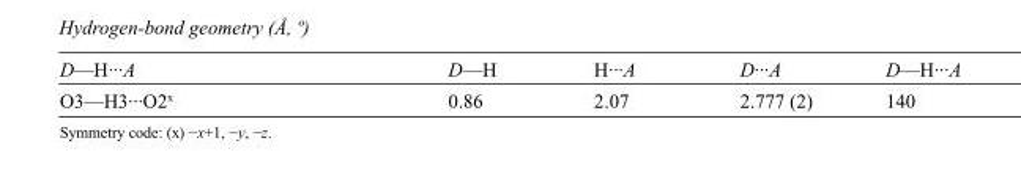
<table><tbody><tr><td>D—H···A</td><td>D—H</td><td>H···A</td><td>D···A</td><td>D—H···A</td></tr><tr><td>O3—H3···O2<sup>x</sup></td><td>0.86</td><td>2.07</td><td>2.777 (2)</td><td>140</td></tr></tbody></table>